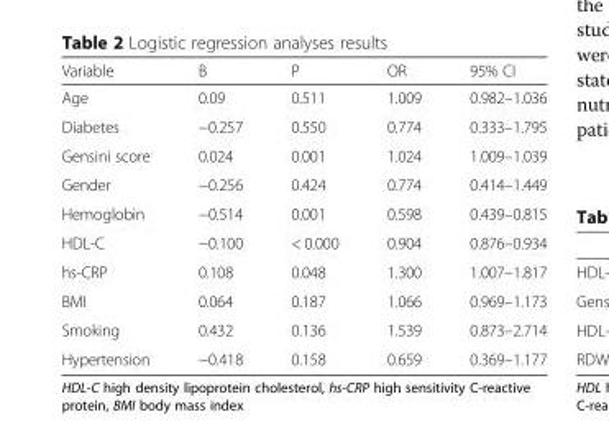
<table><thead><tr><td>Variable</td><td>B</td><td>P</td><td>OR</td><td>95% CI</td></tr></thead><tbody><tr><td>Age</td><td>0.09</td><td>0.511</td><td>1.009</td><td>0.982–1.036</td></tr><tr><td>Diabetes</td><td>−0.257</td><td>0.550</td><td>0.774</td><td>0.333–1.795</td></tr><tr><td>Gensini score</td><td>0.024</td><td>0.001</td><td>1.024</td><td>1.009–1.039</td></tr><tr><td>Gender</td><td>−0.256</td><td>0.424</td><td>0.774</td><td>0.414–1.449</td></tr><tr><td>Hemoglobin</td><td>−0.514</td><td>0.001</td><td>0.598</td><td>0.439–0.815</td></tr><tr><td>HDL-C</td><td>−0.100</td><td>&lt; 0.000</td><td>0.904</td><td>0.876–0.934</td></tr><tr><td>hs-CRP</td><td>0.108</td><td>0.048</td><td>1.300</td><td>1.007–1.817</td></tr><tr><td>BMI</td><td>0.064</td><td>0.187</td><td>1.066</td><td>0.969–1.173</td></tr><tr><td>Smoking</td><td>0.432</td><td>0.136</td><td>1.539</td><td>0.873–2.714</td></tr><tr><td>Hypertension</td><td>−0.418</td><td>0.158</td><td>0.659</td><td>0.369–1.177</td></tr></tbody></table>